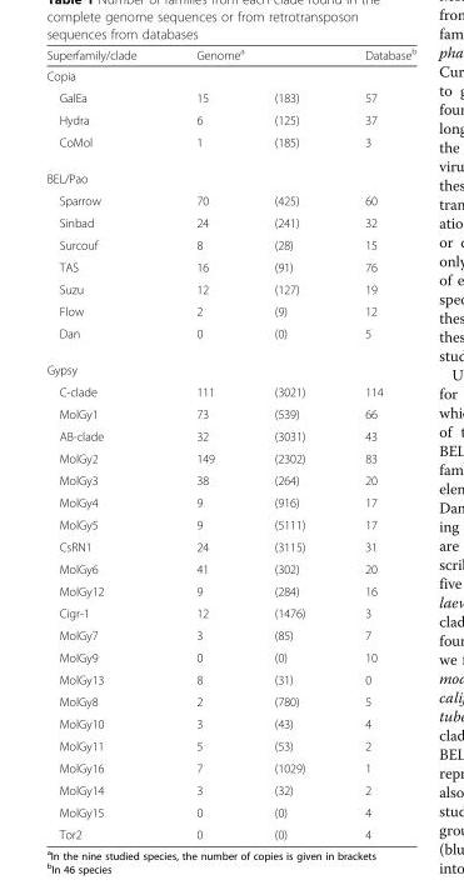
<table><thead><tr><td>Superfamily/clade</td><td colspan="2">Genome<sup>a</sup></td><td>Database<sup>b</sup></td></tr><tr><td colspan="4">Copia</td></tr><tr><td>GalEa</td><td>15</td><td>(183)</td><td>57</td></tr></thead><tbody><tr><td>Hydra</td><td>6</td><td>(125)</td><td>37</td></tr><tr><td>CoMol</td><td>1</td><td>(185)</td><td>3</td></tr><tr><td colspan="4">BEL/Pao</td></tr><tr><td>Sparrow</td><td>70</td><td>(425)</td><td>60</td></tr><tr><td>Sinbad</td><td>24</td><td>(241)</td><td>32</td></tr><tr><td>Surcouf</td><td>8</td><td>(28)</td><td>15</td></tr><tr><td>TAS</td><td>16</td><td>(91)</td><td>76</td></tr><tr><td>Suzu</td><td>12</td><td>(127)</td><td>19</td></tr><tr><td>Flow</td><td>2</td><td>(9)</td><td>12</td></tr><tr><td>Dan</td><td>0</td><td>(0)</td><td>5</td></tr><tr><td colspan="4">Gypsy</td></tr><tr><td>C-clade</td><td>111</td><td>(3021)</td><td>114</td></tr><tr><td>MolGy1</td><td>73</td><td>(539)</td><td>66</td></tr><tr><td>AB-clade</td><td>32</td><td>(3031)</td><td>43</td></tr><tr><td>MolGy2</td><td>149</td><td>(2302)</td><td>83</td></tr><tr><td>MolGy3</td><td>38</td><td>(264)</td><td>20</td></tr><tr><td>MolGy4</td><td>9</td><td>(916)</td><td>17</td></tr><tr><td>MolGy5</td><td>9</td><td>(5111)</td><td>17</td></tr><tr><td>CsRN1</td><td>24</td><td>(3115)</td><td>31</td></tr><tr><td>MolGy6</td><td>41</td><td>(302)</td><td>20</td></tr><tr><td>MolGy12</td><td>9</td><td>(284)</td><td>16</td></tr><tr><td>Cigr-1</td><td>12</td><td>(1476)</td><td>3</td></tr><tr><td>MolGy7</td><td>3</td><td>(85)</td><td>7</td></tr><tr><td>MolGy9</td><td>0</td><td>(0)</td><td>10</td></tr><tr><td>MolGy13</td><td>8</td><td>(31)</td><td>0</td></tr><tr><td>MolGy8</td><td>2</td><td>(780)</td><td>5</td></tr><tr><td>MolGy10</td><td>3</td><td>(43)</td><td>4</td></tr><tr><td>MolGy11</td><td>5</td><td>(53)</td><td>2</td></tr><tr><td>MolGy16</td><td>7</td><td>(1029)</td><td>1</td></tr><tr><td>MolGy14</td><td>3</td><td>(32)</td><td>2</td></tr><tr><td>MolGy15</td><td>0</td><td>(0)</td><td>4</td></tr><tr><td>Tor2</td><td>0</td><td>(0)</td><td>4</td></tr></tbody></table>